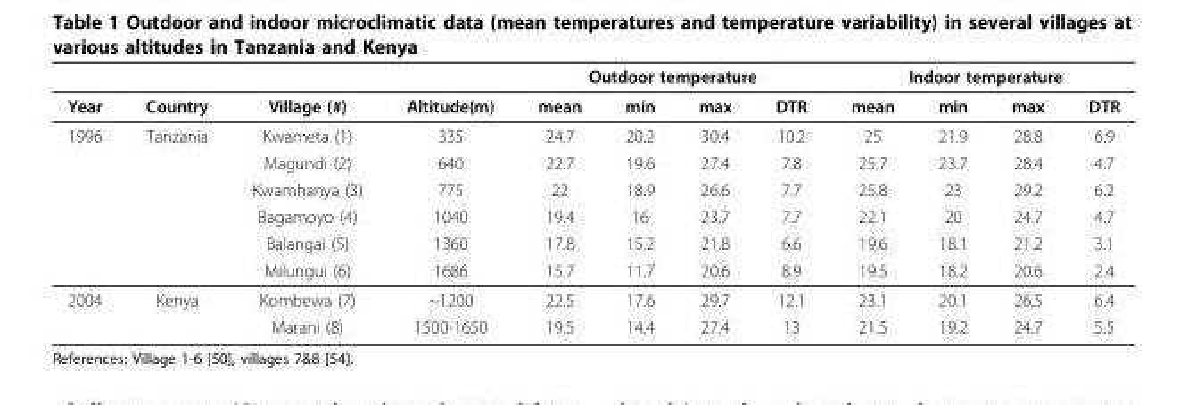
<table><thead><tr><td rowspan="2">Year</td><td rowspan="2">Country</td><td rowspan="2">Village (#)</td><td rowspan="2">Altitude(m)</td><td colspan="4">Outdoor temperature</td><td colspan="4">Indoor temperature</td></tr><tr><td>mean</td><td>min</td><td>max</td><td>DTR</td><td>mean</td><td>min</td><td>max</td><td>DTR</td></tr></thead><tbody><tr><td rowspan="6">1996</td><td>Tanzania</td><td>Kwameta (1)</td><td>335</td><td>24.7</td><td>20.2</td><td>30.4</td><td>10.2</td><td>25</td><td>21.9</td><td>28.8</td><td>6.9</td></tr><tr><td></td><td>Magundi (2)</td><td>640</td><td>22.7</td><td>19.6</td><td>27.4</td><td>7.8</td><td>25.7</td><td>23.7</td><td>28.4</td><td>4.7</td></tr><tr><td></td><td>Kwamhanya (3)</td><td>775</td><td>22</td><td>18.9</td><td>26.6</td><td>7.7</td><td>25.8</td><td>23</td><td>29.2</td><td>6.2</td></tr><tr><td></td><td>Bagamoyo (4)</td><td>1040</td><td>19.4</td><td>16</td><td>23.7</td><td>7.7</td><td>22.1</td><td>20</td><td>24.7</td><td>4.7</td></tr><tr><td></td><td>Balangai (5)</td><td>1360</td><td>17.8</td><td>15.2</td><td>21.8</td><td>6.6</td><td>19.6</td><td>18.1</td><td>21.2</td><td>3.1</td></tr><tr><td></td><td>Milungui (6)</td><td>1686</td><td>15.7</td><td>11.7</td><td>20.6</td><td>8.9</td><td>19.5</td><td>18.2</td><td>20.6</td><td>2.4</td></tr><tr><td rowspan="2">2004</td><td>Kenya</td><td>Kombewa (7)</td><td>~1200</td><td>22.5</td><td>17.6</td><td>29.7</td><td>12.1</td><td>23.1</td><td>20.1</td><td>26.5</td><td>6.4</td></tr><tr><td></td><td>Marani (8)</td><td>1500-1650</td><td>19.5</td><td>14.4</td><td>27.4</td><td>13</td><td>21.5</td><td>19.2</td><td>24.7</td><td>5.5</td></tr></tbody></table>